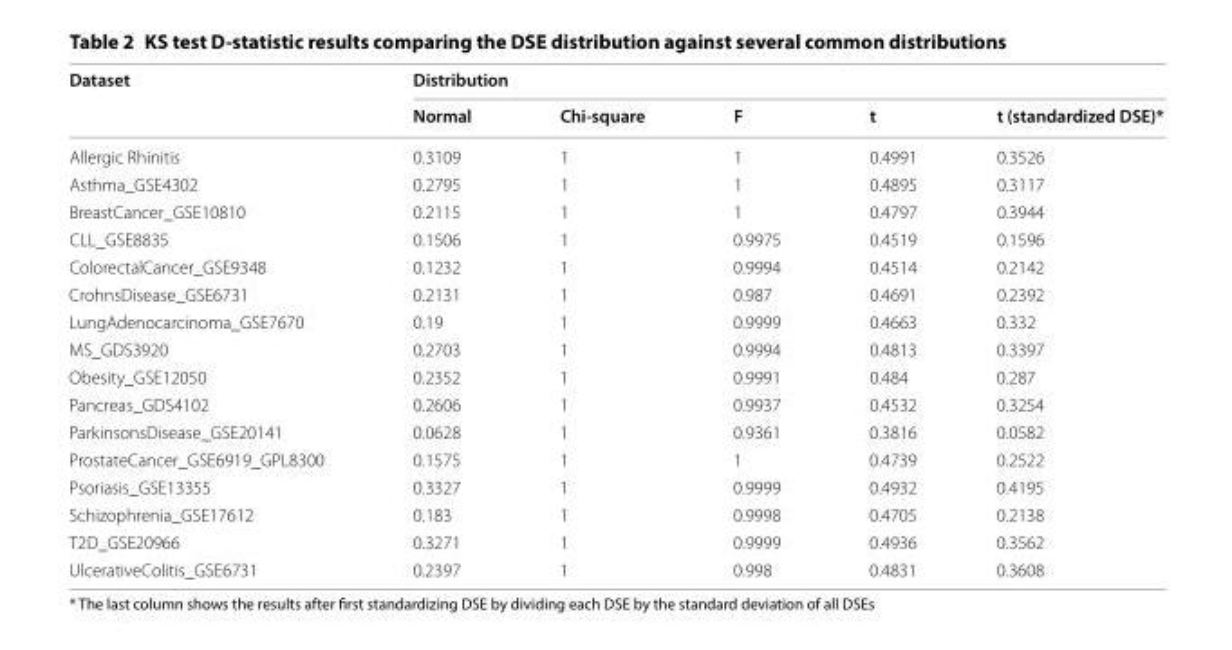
<table><thead><tr><td rowspan="2">Dataset</td><td colspan="5">Distribution</td></tr><tr><td>Normal</td><td>Chi-square</td><td>F</td><td>t</td><td>t (standardized DSE)*</td></tr></thead><tbody><tr><td>Allergic Rhinitis</td><td>0.3109</td><td>1</td><td>1</td><td>0.4991</td><td>0.3526</td></tr><tr><td>Asthma_GSE4302</td><td>0.2795</td><td>1</td><td>1</td><td>0.4895</td><td>0.3117</td></tr><tr><td>BreastCancer_GSE10810</td><td>0.2115</td><td>1</td><td>1</td><td>0.4797</td><td>0.3944</td></tr><tr><td>CLL_GSE8835</td><td>0.1506</td><td>1</td><td>0.9975</td><td>0.4519</td><td>0.1596</td></tr><tr><td>ColorectalCancer_GSE9348</td><td>0.1232</td><td>1</td><td>0.9994</td><td>0.4514</td><td>0.2142</td></tr><tr><td>CrohnsDisease_GSE6731</td><td>0.2131</td><td>1</td><td>0.987</td><td>0.4691</td><td>0.2392</td></tr><tr><td>LungAdenocarcinoma_GSE7670</td><td>0.19</td><td>1</td><td>0.9999</td><td>0.4663</td><td>0.332</td></tr><tr><td>MS_GDS3920</td><td>0.2703</td><td>1</td><td>0.9994</td><td>0.4813</td><td>0.3397</td></tr><tr><td>Obesity_GSE12050</td><td>0.2352</td><td>1</td><td>0.9991</td><td>0.484</td><td>0.287</td></tr><tr><td>Pancreas_GDS4102</td><td>0.2606</td><td>1</td><td>0.9937</td><td>0.4532</td><td>0.3254</td></tr><tr><td>ParkinsonsDisease_GSE20141</td><td>0.0628</td><td>1</td><td>0.9361</td><td>0.3816</td><td>0.0582</td></tr><tr><td>ProstateCancer_GSE6919_GPL8300</td><td>0.1575</td><td>1</td><td>1</td><td>0.4739</td><td>0.2522</td></tr><tr><td>Psoriasis_GSE13355</td><td>0.3327</td><td>1</td><td>0.9999</td><td>0.4932</td><td>0.4195</td></tr><tr><td>Schizophrenia_GSE17612</td><td>0.183</td><td>1</td><td>0.9998</td><td>0.4705</td><td>0.2138</td></tr><tr><td>T2D_GSE20966</td><td>0.3271</td><td>1</td><td>0.9999</td><td>0.4936</td><td>0.3562</td></tr><tr><td>UlcerativeColitis_GSE6731</td><td>0.2397</td><td>1</td><td>0.998</td><td>0.4831</td><td>0.3608</td></tr></tbody></table>